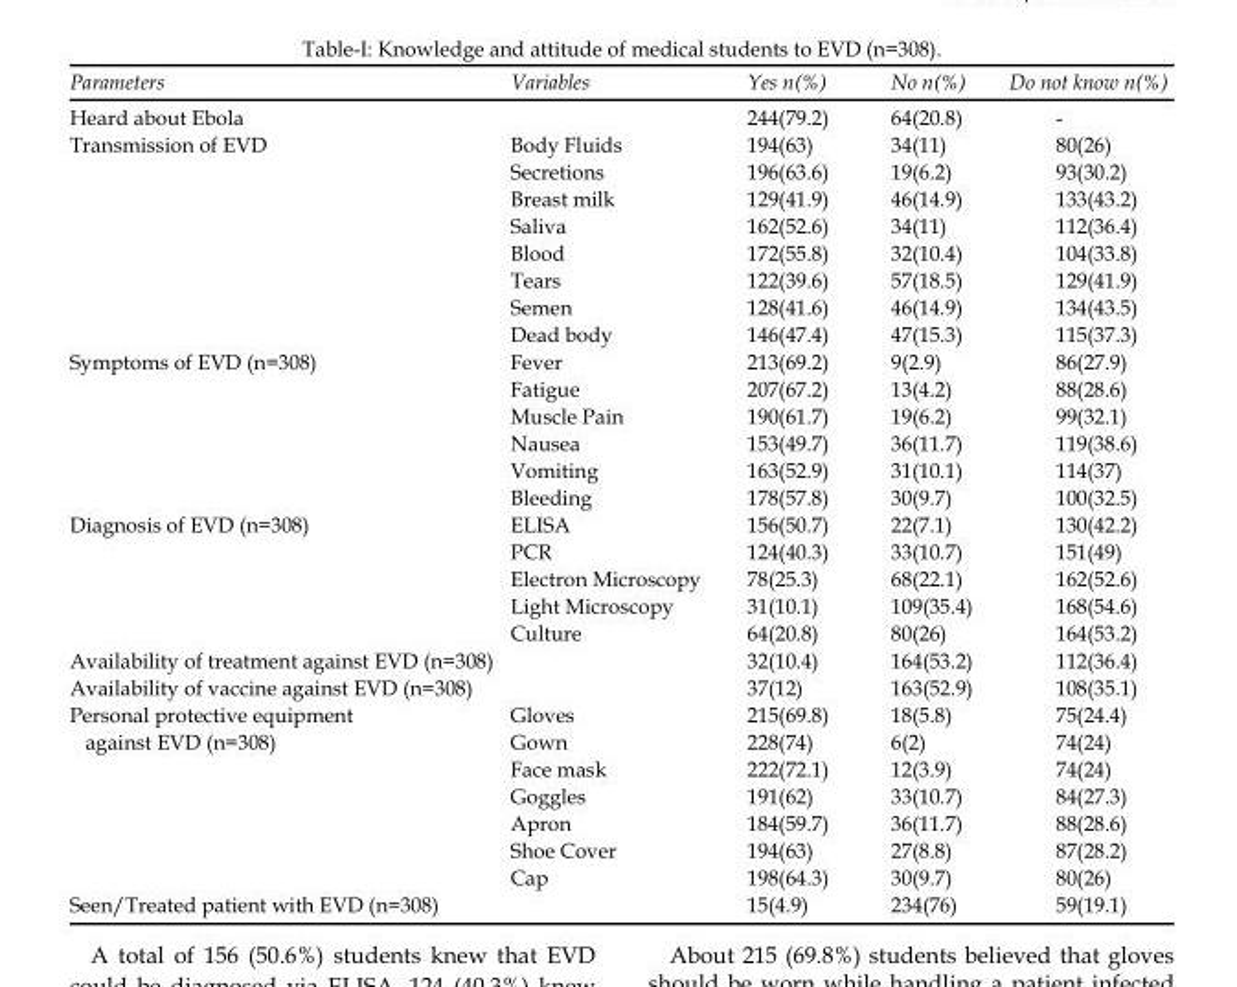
<table><thead><tr><td>Parameters</td><td>Variables</td><td>Yes n(%)</td><td>No n(%)</td><td>Do not know n(%)</td></tr></thead><tbody><tr><td>Heard about Ebola</td><td></td><td>244(79.2)</td><td>64(20.8)</td><td>-</td></tr><tr><td rowspan="8">Transmission of EVD</td><td>Body Fluids</td><td>194(63)</td><td>34(11)</td><td>80(26)</td></tr><tr><td>Secretions</td><td>196(63.6)</td><td>19(6.2)</td><td>93(30.2)</td></tr><tr><td>Breast milk</td><td>129(41.9)</td><td>46(14.9)</td><td>133(43.2)</td></tr><tr><td>Saliva</td><td>162(52.6)</td><td>34(11)</td><td>112(36.4)</td></tr><tr><td>Blood</td><td>172(55.8)</td><td>32(10.4)</td><td>104(33.8)</td></tr><tr><td>Tears</td><td>122(39.6)</td><td>57(18.5)</td><td>129(41.9)</td></tr><tr><td>Semen</td><td>128(41.6)</td><td>46(14.9)</td><td>134(43.5)</td></tr><tr><td>Dead body</td><td>146(47.4)</td><td>47(15.3)</td><td>115(37.3)</td></tr><tr><td rowspan="6">Symptoms of EVD (n=308)</td><td>Fever</td><td>213(69.2)</td><td>9(2.9)</td><td>86(27.9)</td></tr><tr><td>Fatigue</td><td>207(67.2)</td><td>13(4.2)</td><td>88(28.6)</td></tr><tr><td>Muscle Pain</td><td>190(61.7)</td><td>19(6.2)</td><td>99(32.1)</td></tr><tr><td>Nausea</td><td>153(49.7)</td><td>36(11.7)</td><td>119(38.6)</td></tr><tr><td>Vomiting</td><td>163(52.9)</td><td>31(10.1)</td><td>114(37)</td></tr><tr><td>Bleeding</td><td>178(57.8)</td><td>30(9.7)</td><td>100(32.5)</td></tr><tr><td rowspan="5">Diagnosis of EVD (n=308)</td><td>ELISA</td><td>156(50.7)</td><td>22(7.1)</td><td>130(42.2)</td></tr><tr><td>PCR</td><td>124(40.3)</td><td>33(10.7)</td><td>151(49)</td></tr><tr><td>Electron Microscopy</td><td>78(25.3)</td><td>68(22.1)</td><td>162(52.6)</td></tr><tr><td>Light Microscopy</td><td>31(10.1)</td><td>109(35.4)</td><td>168(54.6)</td></tr><tr><td>Culture</td><td>64(20.8)</td><td>80(26)</td><td>164(53.2)</td></tr><tr><td>Availability of treatment against EVD (n=308)</td><td></td><td>32(10.4)</td><td>164(53.2)</td><td>112(36.4)</td></tr><tr><td>Availability of vaccine against EVD (n=308)</td><td></td><td>37(12)</td><td>163(52.9)</td><td>108(35.1)</td></tr><tr><td rowspan="7">Personal protective equipment against EVD (n=308)</td><td>Gloves</td><td>215(69.8)</td><td>18(5.8)</td><td>75(24.4)</td></tr><tr><td>Gown</td><td>228(74)</td><td>6(2)</td><td>74(24)</td></tr><tr><td>Face mask</td><td>222(72.1)</td><td>12(3.9)</td><td>74(24)</td></tr><tr><td>Goggles</td><td>191(62)</td><td>33(10.7)</td><td>84(27.3)</td></tr><tr><td>Apron</td><td>184(59.7)</td><td>36(11.7)</td><td>88(28.6)</td></tr><tr><td>Shoe Cover</td><td>194(63)</td><td>27(8.8)</td><td>87(28.2)</td></tr><tr><td>Cap</td><td>198(64.3)</td><td>30(9.7)</td><td>80(26)</td></tr><tr><td>Seen/Treated patient with EVD (n=308)</td><td></td><td>15(4.9)</td><td>234(76)</td><td>59(19.1)</td></tr></tbody></table>